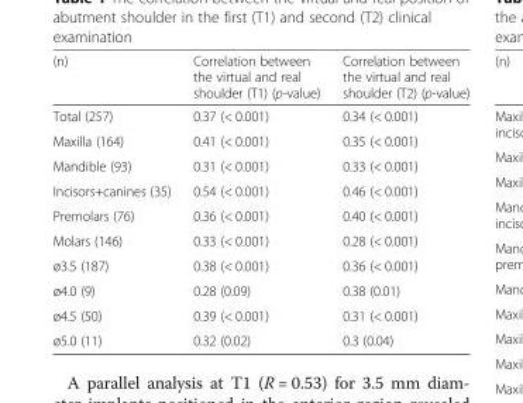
<table><thead><tr><td>(n)</td><td>Correlation between the virtual and real shoulder (T1) (p-value)</td><td>Correlation between the virtual and real shoulder (T2) (p-value)</td></tr></thead><tbody><tr><td>Total (257)</td><td>0.37 (&lt; 0.001)</td><td>0.34 (&lt; 0.001)</td></tr><tr><td>Maxilla (164)</td><td>0.41 (&lt; 0.001)</td><td>0.35 (&lt; 0.001)</td></tr><tr><td>Mandible (93)</td><td>0.31 (&lt; 0.001)</td><td>0.33 (&lt; 0.001)</td></tr><tr><td>Incisors+canines (35)</td><td>0.54 (&lt; 0.001)</td><td>0.46 (&lt; 0.001)</td></tr><tr><td>Premolars (76)</td><td>0.36 (&lt; 0.001)</td><td>0.40 (&lt; 0.001)</td></tr><tr><td>Molars (146)</td><td>0.33 (&lt; 0.001)</td><td>0.28 (&lt; 0.001)</td></tr><tr><td>ø3.5 (187)</td><td>0.38 (&lt; 0.001)</td><td>0.36 (&lt; 0.001)</td></tr><tr><td>ø4.0 (9)</td><td>0.28 (0.09)</td><td>0.38 (0.01)</td></tr><tr><td>ø4.5 (50)</td><td>0.39 (&lt; 0.001)</td><td>0.31 (&lt; 0.001)</td></tr><tr><td>ø5.0 (11)</td><td>0.32 (0.02)</td><td>0.3 (0.04)</td></tr></tbody></table>